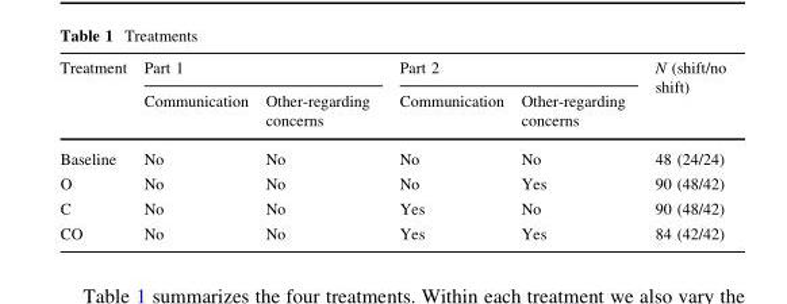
<table><thead><tr><td rowspan="2">Treatment</td><td colspan="2">Part 1</td><td colspan="2">Part 2</td><td rowspan="2">N (shift/no shift)</td></tr><tr><td>Communication</td><td>Other-regarding concerns</td><td>Communication</td><td>Other-regarding concerns</td></tr></thead><tbody><tr><td>Baseline</td><td>No</td><td>No</td><td>No</td><td>No</td><td>48 (24/24)</td></tr><tr><td>O</td><td>No</td><td>No</td><td>No</td><td>Yes</td><td>90 (48/42)</td></tr><tr><td>C</td><td>No</td><td>No</td><td>Yes</td><td>No</td><td>90 (48/42)</td></tr><tr><td>CO</td><td>No</td><td>No</td><td>Yes</td><td>Yes</td><td>84 (42/42)</td></tr></tbody></table>